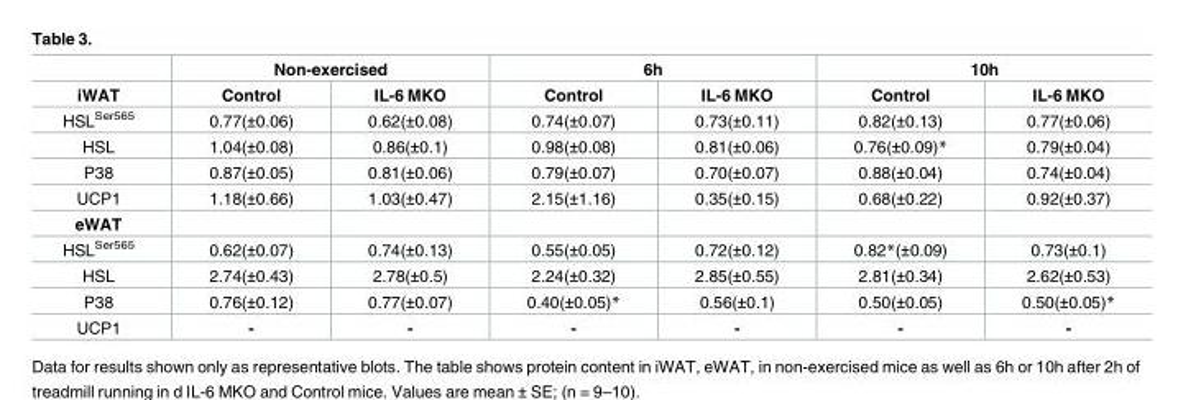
<table><thead><tr><td rowspan="2">iWAT</td><td colspan="2">Non-exercised</td><td colspan="2">6h</td><td colspan="2">10h</td></tr><tr><td>Control</td><td>IL-6 MKO</td><td>Control</td><td>IL-6 MKO</td><td>Control</td><td>IL-6 MKO</td></tr></thead><tbody><tr><td>HSL<sup>Ser565</sup></td><td>0.77(±0.06)</td><td>0.62(±0.08)</td><td>0.74(±0.07)</td><td>0.73(±0.11)</td><td>0.82(±0.13)</td><td>0.77(±0.06)</td></tr><tr><td>HSL</td><td>1.04(±0.08)</td><td>0.86(±0.1)</td><td>0.98(±0.08)</td><td>0.81(±0.06)</td><td>0.76(±0.09)*</td><td>0.79(±0.04)</td></tr><tr><td>P38</td><td>0.87(±0.05)</td><td>0.81(±0.06)</td><td>0.79(±0.07)</td><td>0.70(±0.07)</td><td>0.88(±0.04)</td><td>0.74(±0.04)</td></tr><tr><td>UCP1</td><td>1.18(±0.66)</td><td>1.03(±0.47)</td><td>2.15(±1.16)</td><td>0.35(±0.15)</td><td>0.68(±0.22)</td><td>0.92(±0.37)</td></tr><tr><td colspan="7">eWAT</td></tr><tr><td>HSL<sup>Ser565</sup></td><td>0.62(±0.07)</td><td>0.74(±0.13)</td><td>0.55(±0.05)</td><td>0.72(±0.12)</td><td>0.82*(±0.09)</td><td>0.73(±0.1)</td></tr><tr><td>HSL</td><td>2.74(±0.43)</td><td>2.78(±0.5)</td><td>2.24(±0.32)</td><td>2.85(±0.55)</td><td>2.81(±0.34)</td><td>2.62(±0.53)</td></tr><tr><td>P38</td><td>0.76(±0.12)</td><td>0.77(±0.07)</td><td>0.40(±0.05)*</td><td>0.56(±0.1)</td><td>0.50(±0.05)</td><td>0.50(±0.05)*</td></tr><tr><td>UCP1</td><td>-</td><td>-</td><td>-</td><td>-</td><td>-</td><td>-</td></tr></tbody></table>